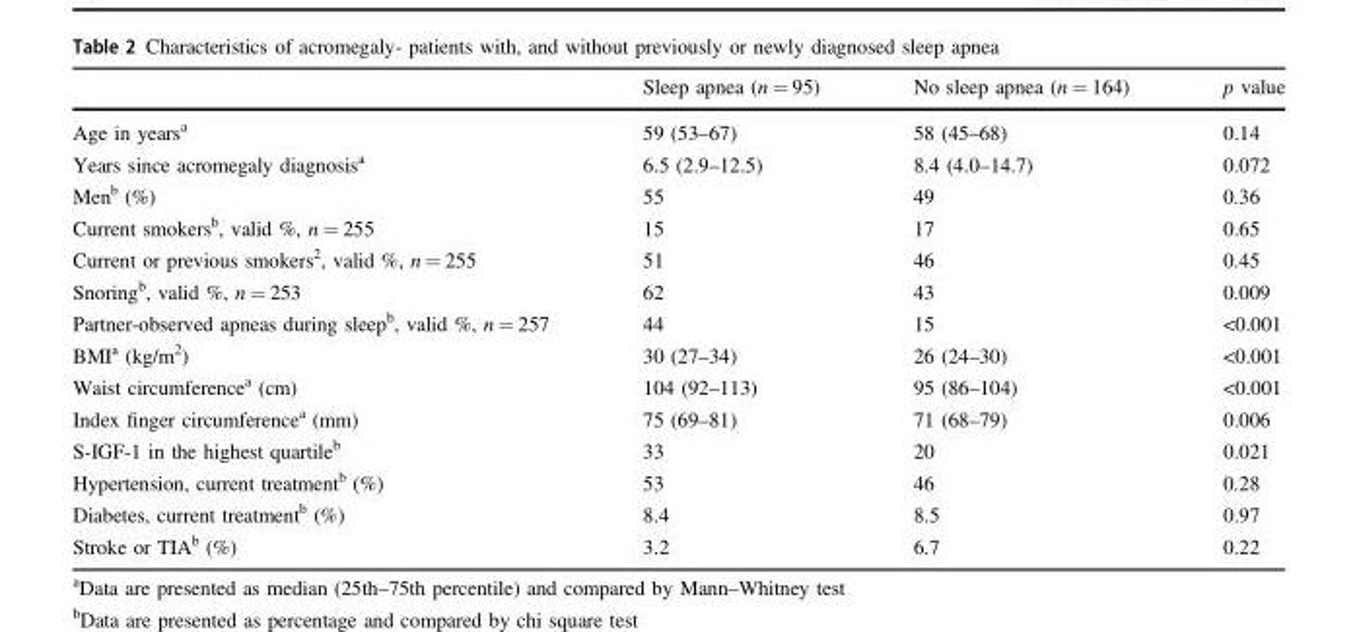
<table><thead><tr><td></td><td>Sleep apnea (n = 95)</td><td>No sleep apnea (n = 164)</td><td>p value</td></tr></thead><tbody><tr><td>Age in years<sup>a</sup></td><td>59 (53–67)</td><td>58 (45–68)</td><td>0.14</td></tr><tr><td>Years since acromegaly diagnosis<sup>a</sup></td><td>6.5 (2.9–12.5)</td><td>8.4 (4.0–14.7)</td><td>0.072</td></tr><tr><td>Men<sup>b</sup> (%)</td><td>55</td><td>49</td><td>0.36</td></tr><tr><td>Current smokers<sup>b</sup>, valid %, n = 255</td><td>15</td><td>17</td><td>0.65</td></tr><tr><td>Current or previous smokers<sup>2</sup>, valid %, n = 255</td><td>51</td><td>46</td><td>0.45</td></tr><tr><td>Snoring<sup>b</sup>, valid %, n = 253</td><td>62</td><td>43</td><td>0.009</td></tr><tr><td>Partner-observed apneas during sleep<sup>b</sup>, valid %, n = 257</td><td>44</td><td>15</td><td>&lt;0.001</td></tr><tr><td>BMI<sup>a</sup> (kg/m<sup>2</sup>)</td><td>30 (27–34)</td><td>26 (24–30)</td><td>&lt;0.001</td></tr><tr><td>Waist circumference<sup>a</sup> (cm)</td><td>104 (92–113)</td><td>95 (86–104)</td><td>&lt;0.001</td></tr><tr><td>Index finger circumference<sup>a</sup> (mm)</td><td>75 (69–81)</td><td>71 (68–79)</td><td>0.006</td></tr><tr><td>S-IGF-1 in the highest quartile<sup>b</sup></td><td>33</td><td>20</td><td>0.021</td></tr><tr><td>Hypertension, current treatment<sup>b</sup> (%)</td><td>53</td><td>46</td><td>0.28</td></tr><tr><td>Diabetes, current treatment<sup>b</sup> (%)</td><td>8.4</td><td>8.5</td><td>0.97</td></tr><tr><td>Stroke or TIA<sup>b</sup> (%)</td><td>3.2</td><td>6.7</td><td>0.22</td></tr></tbody></table>